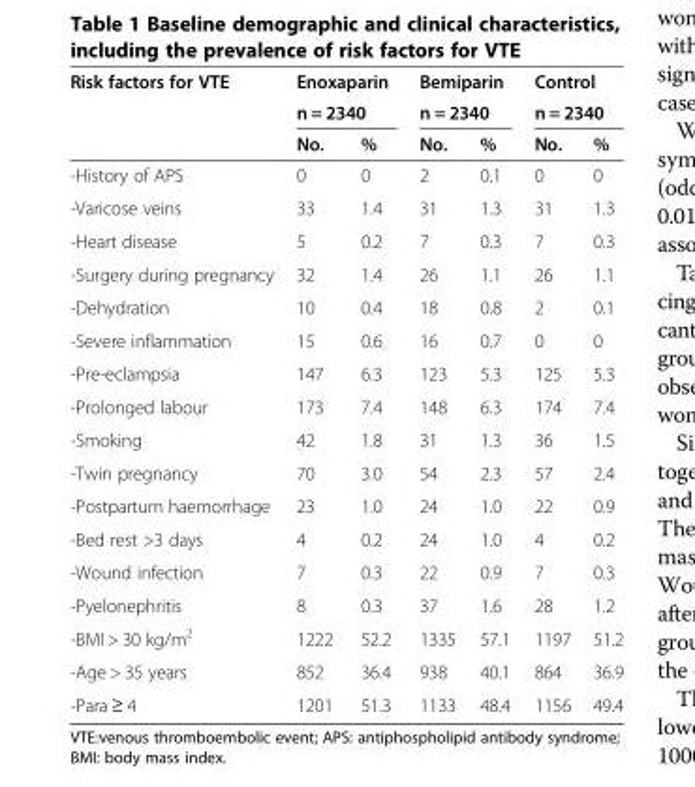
<table><thead><tr><td rowspan="3">Risk factors for VTE</td><td rowspan="2" colspan="2">Enoxaparin n = 2340</td><td rowspan="2" colspan="2">Bemiparin n = 2340</td><td rowspan="2" colspan="2">Control n = 2340</td></tr><tr></tr><tr><td>No.</td><td>%</td><td>No.</td><td>%</td><td>No.</td><td>%</td></tr></thead><tbody><tr><td>-History of APS</td><td>0</td><td>0</td><td>2</td><td>0.1</td><td>0</td><td>0</td></tr><tr><td>-Varicose veins</td><td>33</td><td>1.4</td><td>31</td><td>1.3</td><td>31</td><td>1.3</td></tr><tr><td>-Heart disease</td><td>5</td><td>0.2</td><td>7</td><td>0.3</td><td>7</td><td>0.3</td></tr><tr><td>-Surgery during pregnancy</td><td>32</td><td>1.4</td><td>26</td><td>1.1</td><td>26</td><td>1.1</td></tr><tr><td>-Dehydration</td><td>10</td><td>0.4</td><td>18</td><td>0.8</td><td>2</td><td>0.1</td></tr><tr><td>-Severe inflammation</td><td>15</td><td>0.6</td><td>16</td><td>0.7</td><td>0</td><td>0</td></tr><tr><td>-Pre-eclampsia</td><td>147</td><td>6.3</td><td>123</td><td>5.3</td><td>125</td><td>5.3</td></tr><tr><td>-Prolonged labour</td><td>173</td><td>7.4</td><td>148</td><td>6.3</td><td>174</td><td>7.4</td></tr><tr><td>-Smoking</td><td>42</td><td>1.8</td><td>31</td><td>1.3</td><td>36</td><td>1.5</td></tr><tr><td>-Twin pregnancy</td><td>70</td><td>3.0</td><td>54</td><td>2.3</td><td>57</td><td>2.4</td></tr><tr><td>-Postpartum haemorrhage</td><td>23</td><td>1.0</td><td>24</td><td>1.0</td><td>22</td><td>0.9</td></tr><tr><td>-Bed rest &gt;3 days</td><td>4</td><td>0.2</td><td>24</td><td>1.0</td><td>4</td><td>0.2</td></tr><tr><td>-Wound infection</td><td>7</td><td>0.3</td><td>22</td><td>0.9</td><td>7</td><td>0.3</td></tr><tr><td>-Pyelonephritis</td><td>8</td><td>0.3</td><td>37</td><td>1.6</td><td>28</td><td>1.2</td></tr><tr><td>-BMI &gt; 30 kg/m<sup>2</sup></td><td>1222</td><td>52.2</td><td>1335</td><td>57.1</td><td>1197</td><td>51.2</td></tr><tr><td>-Age &gt; 35 years</td><td>852</td><td>36.4</td><td>938</td><td>40.1</td><td>864</td><td>36.9</td></tr><tr><td>-Para ≥ 4</td><td>1201</td><td>51.3</td><td>1133</td><td>48.4</td><td>1156</td><td>49.4</td></tr></tbody></table>